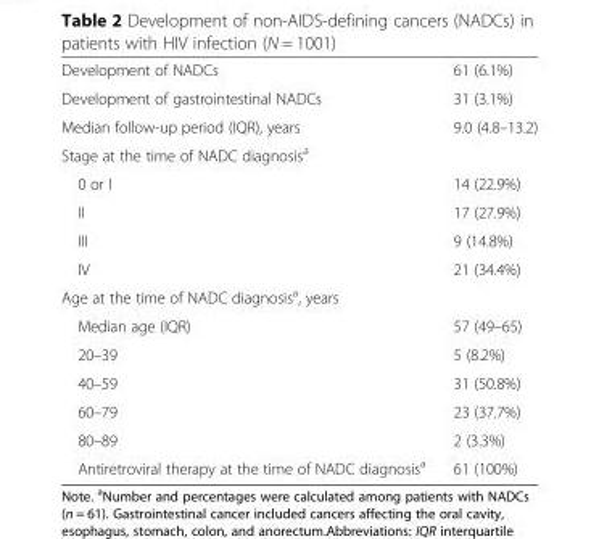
<table><tbody><tr><td>Development of NADCs</td><td>61 (6.1%)</td></tr><tr><td>Development of gastrointestinal NADCs</td><td>31 (3.1%)</td></tr><tr><td>Median follow-up period (IQR), years</td><td>9.0 (4.8–13.2)</td></tr><tr><td colspan="2">Stage at the time of NADC diagnosis<sup>a</sup></td></tr><tr><td>0 or I</td><td>14 (22.9%)</td></tr><tr><td>II</td><td>17 (27.9%)</td></tr><tr><td>III</td><td>9 (14.8%)</td></tr><tr><td>IV</td><td>21 (34.4%)</td></tr><tr><td colspan="2">Age at the time of NADC diagnosis<sup>a</sup>, years</td></tr><tr><td>Median age (IQR)</td><td>57 (49–65)</td></tr><tr><td>20–39</td><td>5 (8.2%)</td></tr><tr><td>40–59</td><td>31 (50.8%)</td></tr><tr><td>60–79</td><td>23 (37.7%)</td></tr><tr><td>80–89</td><td>2 (3.3%)</td></tr><tr><td>Antiretroviral therapy at the time of NADC diagnosis<sup>a</sup></td><td>61 (100%)</td></tr></tbody></table>